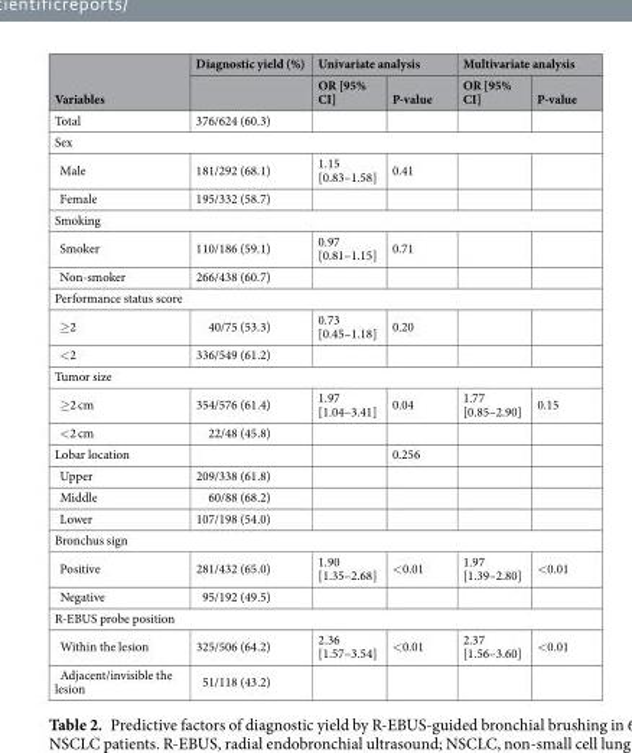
<table><thead><tr><td rowspan="2">Variables</td><td rowspan="2">Diagnostic yield (%)</td><td colspan="2">Univariate analysis</td><td colspan="2">Multivariate analysis</td></tr><tr><td>OR [95% CI]</td><td>P-value</td><td>OR [95% CI]</td><td>P-value</td></tr></thead><tbody><tr><td>Total</td><td>376/624 (60.3)</td><td></td><td></td><td></td><td></td></tr><tr><td colspan="6">Sex</td></tr><tr><td>Male</td><td>181/292 (68.1)</td><td>1.15 [0.83–1.58]</td><td>0.41</td><td></td><td></td></tr><tr><td>Female</td><td>195/332 (58.7)</td><td></td><td></td><td></td><td></td></tr><tr><td colspan="6">Smoking</td></tr><tr><td>Smoker</td><td>110/186 (59.1)</td><td>0.97 [0.81–1.15]</td><td>0.71</td><td></td><td></td></tr><tr><td>Non-smoker</td><td>266/438 (60.7)</td><td></td><td></td><td></td><td></td></tr><tr><td colspan="6">Performance status score</td></tr><tr><td>≥2</td><td>40/75 (53.3)</td><td>0.73 [0.45–1.18]</td><td>0.20</td><td></td><td></td></tr><tr><td>&lt;2</td><td>336/549 (61.2)</td><td></td><td></td><td></td><td></td></tr><tr><td colspan="6">Tumor size</td></tr><tr><td>≥2 cm</td><td>354/576 (61.4)</td><td>1.97 [1.04–3.41]</td><td>0.04</td><td>1.77 [0.85–2.90]</td><td>0.15</td></tr><tr><td>&lt;2 cm</td><td>22/48 (45.8)</td><td></td><td></td><td></td><td></td></tr><tr><td>Lobar location</td><td></td><td></td><td>0.256</td><td></td><td></td></tr><tr><td>Upper</td><td>209/338 (61.8)</td><td></td><td></td><td></td><td></td></tr><tr><td>Middle</td><td>60/88 (68.2)</td><td></td><td></td><td></td><td></td></tr><tr><td>Lower</td><td>107/198 (54.0)</td><td></td><td></td><td></td><td></td></tr><tr><td colspan="6">Bronchus sign</td></tr><tr><td>Positive</td><td>281/432 (65.0)</td><td>1.90 [1.35–2.68]</td><td>&lt;0.01</td><td>1.97 [1.39–2.80]</td><td>&lt;0.01</td></tr><tr><td>Negative</td><td>95/192 (49.5)</td><td></td><td></td><td></td><td></td></tr><tr><td colspan="6">R-EBUS probe position</td></tr><tr><td>Within the lesion</td><td>325/506 (64.2)</td><td>2.36 [1.57–3.54]</td><td>&lt;0.01</td><td>2.37 [1.56–3.60]</td><td>&lt;0.01</td></tr><tr><td>Adjacent/invisible the lesion</td><td>51/118 (43.2)</td><td></td><td></td><td></td><td></td></tr></tbody></table>